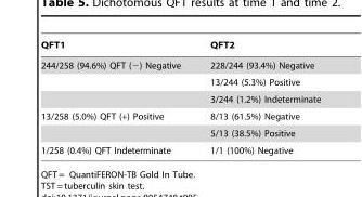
<table><thead><tr><td>QFT1</td><td>QFT2</td></tr></thead><tbody><tr><td rowspan="3">244/258 (94.6%) QFT (−) Negative</td><td>228/244 (93.4%) Negative</td></tr><tr><td>13/244 (5.3%) Positive</td></tr><tr><td>3/244 (1.2%) Indeterminate</td></tr><tr><td rowspan="2">13/258 (5.0%) QFT (+) Positive</td><td>8/13 (61.5%) Negative</td></tr><tr><td>5/13 (38.5%) Positive</td></tr><tr><td>1/258 (0.4%) QFT Indeterminate</td><td>1/1 (100%) Negative</td></tr></tbody></table>